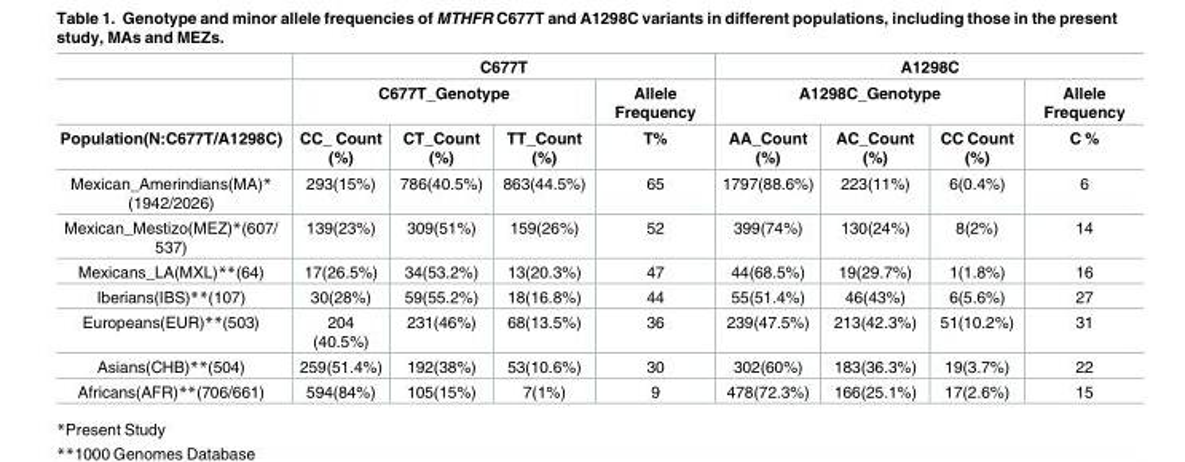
<table><thead><tr><td rowspan="3">Population(N:C677T/A1298C)</td><td colspan="4">C677T</td><td colspan="4">A1298C</td></tr><tr><td colspan="3">C677T_Genotype</td><td rowspan="2">Allele Frequency T%</td><td colspan="3">A1298C_Genotype</td><td rowspan="2">Allele Frequency C %</td></tr><tr><td>CC_ Count (%)</td><td>CT_Count (%)</td><td>TT_Count (%)</td><td>AA_Count (%)</td><td>AC_Count (%)</td><td>CC Count (%)</td></tr></thead><tbody><tr><td>Mexican_Amerindians(MA)* (1942/2026)</td><td>293(15%)</td><td>786(40.5%)</td><td>863(44.5%)</td><td>65</td><td>1797(88.6%)</td><td>223(11%)</td><td>6(0.4%)</td><td>6</td></tr><tr><td>Mexican_Mestizo(MEZ)*(607/ 537)</td><td>139(23%)</td><td>309(51%)</td><td>159(26%)</td><td>52</td><td>399(74%)</td><td>130(24%)</td><td>8(2%)</td><td>14</td></tr><tr><td>Mexicans_LA(MXL)**(64)</td><td>17(26.5%)</td><td>34(53.2%)</td><td>13(20.3%)</td><td>47</td><td>44(68.5%)</td><td>19(29.7%)</td><td>1(1.8%)</td><td>16</td></tr><tr><td>Iberians(IBS)**(107)</td><td>30(28%)</td><td>59(55.2%)</td><td>18(16.8%)</td><td>44</td><td>55(51.4%)</td><td>46(43%)</td><td>6(5.6%)</td><td>27</td></tr><tr><td>Europeans(EUR)**(503)</td><td>204 (40.5%)</td><td>231(46%)</td><td>68(13.5%)</td><td>36</td><td>239(47.5%)</td><td>213(42.3%)</td><td>51(10.2%)</td><td>31</td></tr><tr><td>Asians(CHB)**(504)</td><td>259(51.4%)</td><td>192(38%)</td><td>53(10.6%)</td><td>30</td><td>302(60%)</td><td>183(36.3%)</td><td>19(3.7%)</td><td>22</td></tr><tr><td>Africans(AFR)**(706/661)</td><td>594(84%)</td><td>105(15%)</td><td>7(1%)</td><td>9</td><td>478(72.3%)</td><td>166(25.1%)</td><td>17(2.6%)</td><td>15</td></tr></tbody></table>